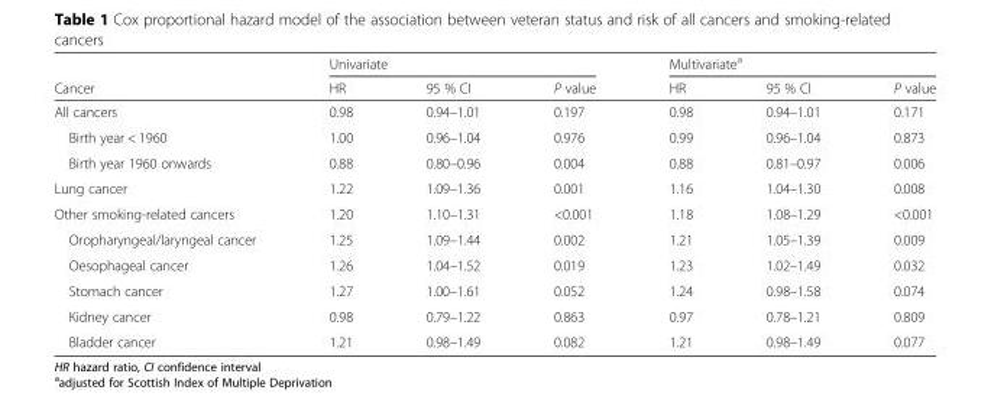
<table><thead><tr><td rowspan="2">Cancer</td><td colspan="3">Univariate</td><td colspan="3">Multivariate<sup>a</sup></td></tr><tr><td>HR</td><td>95 % CI</td><td>P value</td><td>HR</td><td>95 % CI</td><td>P value</td></tr></thead><tbody><tr><td>All cancers</td><td>0.98</td><td>0.94–1.01</td><td>0.197</td><td>0.98</td><td>0.94–1.01</td><td>0.171</td></tr><tr><td>Birth year &lt; 1960</td><td>1.00</td><td>0.96–1.04</td><td>0.976</td><td>0.99</td><td>0.96–1.04</td><td>0.873</td></tr><tr><td>Birth year 1960 onwards</td><td>0.88</td><td>0.80–0.96</td><td>0.004</td><td>0.88</td><td>0.81–0.97</td><td>0.006</td></tr><tr><td>Lung cancer</td><td>1.22</td><td>1.09–1.36</td><td>0.001</td><td>1.16</td><td>1.04–1.30</td><td>0.008</td></tr><tr><td>Other smoking-related cancers</td><td>1.20</td><td>1.10–1.31</td><td>&lt;0.001</td><td>1.18</td><td>1.08–1.29</td><td>&lt;0.001</td></tr><tr><td>Oropharyngeal/laryngeal cancer</td><td>1.25</td><td>1.09–1.44</td><td>0.002</td><td>1.21</td><td>1.05–1.39</td><td>0.009</td></tr><tr><td>Oesophageal cancer</td><td>1.26</td><td>1.04–1.52</td><td>0.019</td><td>1.23</td><td>1.02–1.49</td><td>0.032</td></tr><tr><td>Stomach cancer</td><td>1.27</td><td>1.00–1.61</td><td>0.052</td><td>1.24</td><td>0.98–1.58</td><td>0.074</td></tr><tr><td>Kidney cancer</td><td>0.98</td><td>0.79–1.22</td><td>0.863</td><td>0.97</td><td>0.78–1.21</td><td>0.809</td></tr><tr><td>Bladder cancer</td><td>1.21</td><td>0.98–1.49</td><td>0.082</td><td>1.21</td><td>0.98–1.49</td><td>0.077</td></tr></tbody></table>